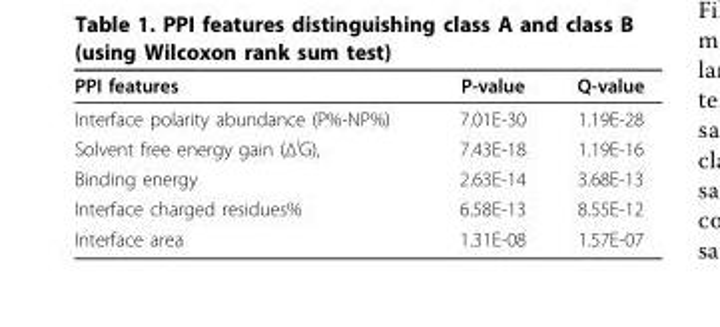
<table><thead><tr><td>PPI features</td><td>P-value</td><td>Q-value</td></tr></thead><tbody><tr><td>Interface polarity abundance (P%-NP%)</td><td>7.01E-30</td><td>1.19E-28</td></tr><tr><td>Solvent free energy gain (Δ<sup>i</sup>G),</td><td>7.43E-18</td><td>1.19E-16</td></tr><tr><td>Binding energy</td><td>2.63E-14</td><td>3.68E-13</td></tr><tr><td>Interface charged residues%</td><td>6.58E-13</td><td>8.55E-12</td></tr><tr><td>Interface area</td><td>1.31E-08</td><td>1.57E-07</td></tr></tbody></table>